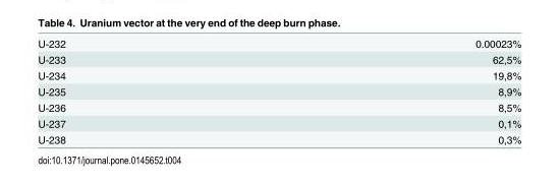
<table><tbody><tr><td>U-232</td><td>0.00023%</td></tr><tr><td>U-233</td><td>62,5%</td></tr><tr><td>U-234</td><td>19,8%</td></tr><tr><td>U-235</td><td>8,9%</td></tr><tr><td>U-236</td><td>8,5%</td></tr><tr><td>U-237</td><td>0,1%</td></tr><tr><td>U-238</td><td>0,3%</td></tr></tbody></table>